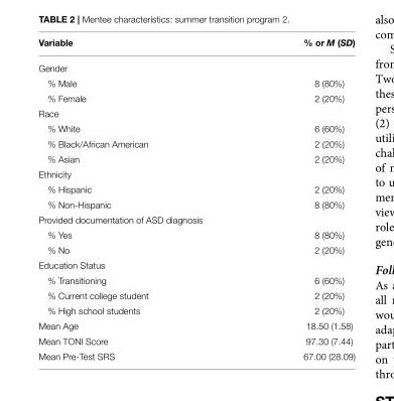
<table><thead><tr><td>Variable</td><td>% or M (SD)</td></tr></thead><tbody><tr><td colspan="2">Gender</td></tr><tr><td>% Male</td><td>8 (80%)</td></tr><tr><td>% Female</td><td>2 (20%)</td></tr><tr><td colspan="2">Race</td></tr><tr><td>% White</td><td>6 (60%)</td></tr><tr><td>% Black/African American</td><td>2 (20%)</td></tr><tr><td>% Asian</td><td>2 (20%)</td></tr><tr><td colspan="2">Ethnicity</td></tr><tr><td>% Hispanic</td><td>2 (20%)</td></tr><tr><td>% Non-Hispanic</td><td>8 (80%)</td></tr><tr><td colspan="2">Provided documentation of ASD diagnosis</td></tr><tr><td>% Yes</td><td>8 (80%)</td></tr><tr><td>% No</td><td>2 (20%)</td></tr><tr><td colspan="2">Education Status</td></tr><tr><td>% Transitioning</td><td>6 (60%)</td></tr><tr><td>% Current college student</td><td>2 (20%)</td></tr><tr><td>% High school students</td><td>2 (20%)</td></tr><tr><td>Mean Age</td><td>18.50 (1.58)</td></tr><tr><td>Mean TONI Score</td><td>97.30 (7.44)</td></tr><tr><td>Mean Pre-Test SRS</td><td>67.00 (28.09)</td></tr></tbody></table>